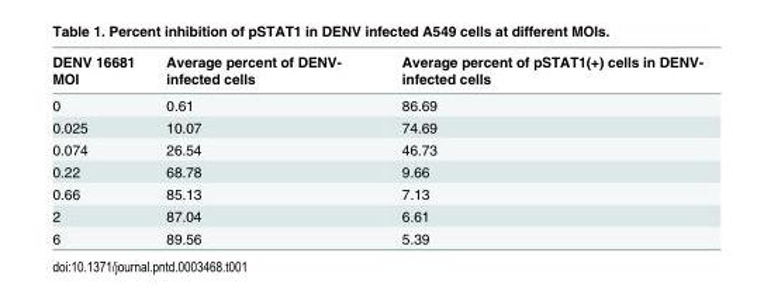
<table><thead><tr><td>DENV 16681 MOI</td><td>Average percent of DENV- infected cells</td><td>Average percent of pSTAT1(+) cells in DENV- infected cells</td></tr></thead><tbody><tr><td>0</td><td>0.61</td><td>86.69</td></tr><tr><td>0.025</td><td>10.07</td><td>74.69</td></tr><tr><td>0.074</td><td>26.54</td><td>46.73</td></tr><tr><td>0.22</td><td>68.78</td><td>9.66</td></tr><tr><td>0.66</td><td>85.13</td><td>7.13</td></tr><tr><td>2</td><td>87.04</td><td>6.61</td></tr><tr><td>6</td><td>89.56</td><td>5.39</td></tr></tbody></table>